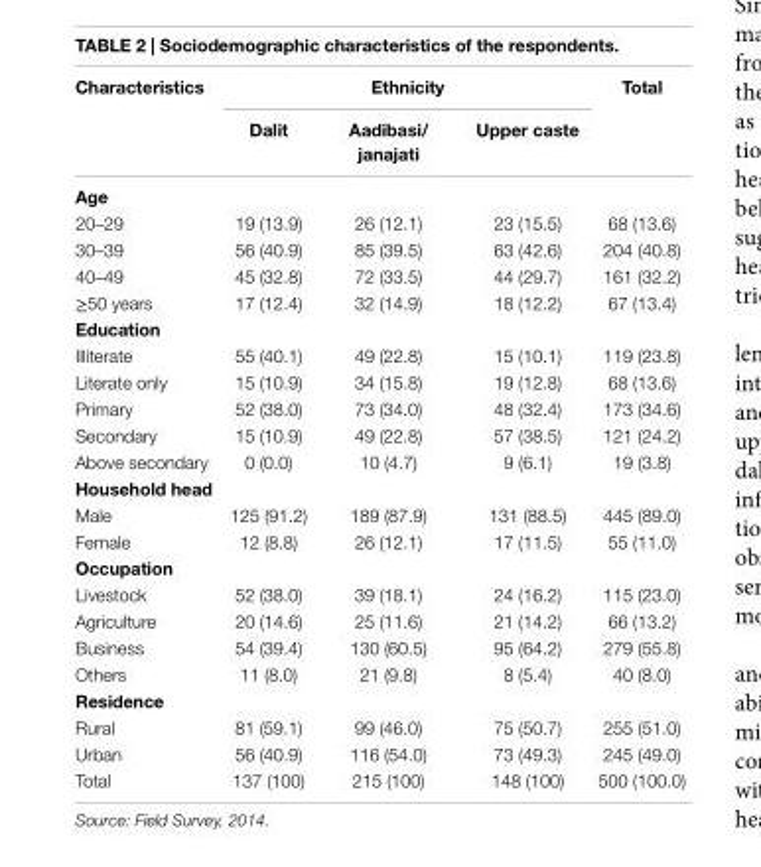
<table><thead><tr><td rowspan="2">characteristics</td><td colspan="3">ethnicity</td><td rowspan="2">Total</td></tr><tr><td>Dalit</td><td>aadibasi/ janajati</td><td>Upper caste</td></tr></thead><tbody><tr><td colspan="5">age</td></tr><tr><td>20–29</td><td>19 (13.9)</td><td>26 (12.1)</td><td>23 (15.5)</td><td>68 (13.6)</td></tr><tr><td>30–39</td><td>56 (40.9)</td><td>85 (39.5)</td><td>63 (42.6)</td><td>204 (40.8)</td></tr><tr><td>40–49</td><td>45 (32.8)</td><td>72 (33.5)</td><td>44 (29.7)</td><td>161 (32.2)</td></tr><tr><td>≥50 years</td><td>17 (12.4)</td><td>32 (14.9)</td><td>18 (12.2)</td><td>67 (13.4)</td></tr><tr><td colspan="5">education</td></tr><tr><td>Illiterate</td><td>55 (40.1)</td><td>49 (22.8)</td><td>15 (10.1)</td><td>119 (23.8)</td></tr><tr><td>Literate only</td><td>15 (10.9)</td><td>34 (15.8)</td><td>19 (12.8)</td><td>68 (13.6)</td></tr><tr><td>Primary</td><td>52 (38.0)</td><td>73 (34.0)</td><td>48 (32.4)</td><td>173 (34.6)</td></tr><tr><td>Secondary</td><td>15 (10.9)</td><td>49 (22.8)</td><td>57 (38.5)</td><td>121 (24.2)</td></tr><tr><td>Above secondary</td><td>0 (0.0)</td><td>10 (4.7)</td><td>9 (6.1)</td><td>19 (3.8)</td></tr><tr><td colspan="5">household head</td></tr><tr><td>Male</td><td>125 (91.2)</td><td>189 (87.9)</td><td>131 (88.5)</td><td>445 (89.0)</td></tr><tr><td>Female</td><td>12 (8.8)</td><td>26 (12.1)</td><td>17 (11.5)</td><td>55 (11.0)</td></tr><tr><td colspan="5">Occupation</td></tr><tr><td>Livestock</td><td>52 (38.0)</td><td>39 (18.1)</td><td>24 (16.2)</td><td>115 (23.0)</td></tr><tr><td>Agriculture</td><td>20 (14.6)</td><td>25 (11.6)</td><td>21 (14.2)</td><td>66 (13.2)</td></tr><tr><td>Business</td><td>54 (39.4)</td><td>130 (60.5)</td><td>95 (64.2)</td><td>279 (55.8)</td></tr><tr><td>Others</td><td>11 (8.0)</td><td>21 (9.8)</td><td>8 (5.4)</td><td>40 (8.0)</td></tr><tr><td colspan="5">residence</td></tr><tr><td>Rural</td><td>81 (59.1)</td><td>99 (46.0)</td><td>75 (50.7)</td><td>255 (51.0)</td></tr><tr><td>Urban</td><td>56 (40.9)</td><td>116 (54.0)</td><td>73 (49.3)</td><td>245 (49.0)</td></tr><tr><td>Total</td><td>137 (100)</td><td>215 (100)</td><td>148 (100)</td><td>500 (100.0)</td></tr></tbody></table>